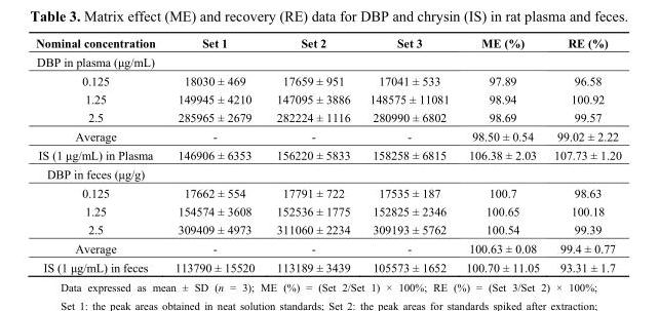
<table><thead><tr><td>Nominal concentration</td><td>Set 1</td><td>Set 2</td><td>Set 3</td><td>ME (%)</td><td>RE (%)</td></tr></thead><tbody><tr><td colspan="6">DBP in plasma (μg/mL)</td></tr><tr><td>0.125</td><td>18030 ± 469</td><td>17659 ± 951</td><td>17041 ± 533</td><td>97.89</td><td>96.58</td></tr><tr><td>1.25</td><td>149945 ± 4210</td><td>147095 ± 3886</td><td>148575 ± 11081</td><td>98.94</td><td>100.92</td></tr><tr><td>2.5</td><td>285965 ± 2679</td><td>282224 ± 1116</td><td>280990 ± 6802</td><td>98.69</td><td>99.57</td></tr><tr><td>Average</td><td>-</td><td>-</td><td>-</td><td>98.50 ± 0.54</td><td>99.02 ± 2.22</td></tr><tr><td>IS (1 μg/mL) in Plasma</td><td>146906 ± 6353</td><td>156220 ± 5833</td><td>158258 ± 6815</td><td>106.38 ± 2.03</td><td>107.73 ± 1.20</td></tr><tr><td colspan="6">DBP in feces (μg/g)</td></tr><tr><td>0.125</td><td>17662 ± 554</td><td>17791 ± 722</td><td>17535 ± 187</td><td>100.7</td><td>98.63</td></tr><tr><td>1.25</td><td>154574 ± 3608</td><td>152536 ± 1775</td><td>152825 ± 2346</td><td>100.65</td><td>100.18</td></tr><tr><td>2.5</td><td>309409 ± 4973</td><td>311060 ± 2234</td><td>309193 ± 5762</td><td>100.54</td><td>99.39</td></tr><tr><td>Average</td><td>-</td><td>-</td><td>-</td><td>100.63 ± 0.08</td><td>99.4 ± 0.77</td></tr><tr><td>IS (1 μg/mL) in feces</td><td>113790 ± 15520</td><td>113189 ± 3439</td><td>105573 ± 1652</td><td>100.70 ± 11.05</td><td>93.31 ± 1.7</td></tr></tbody></table>